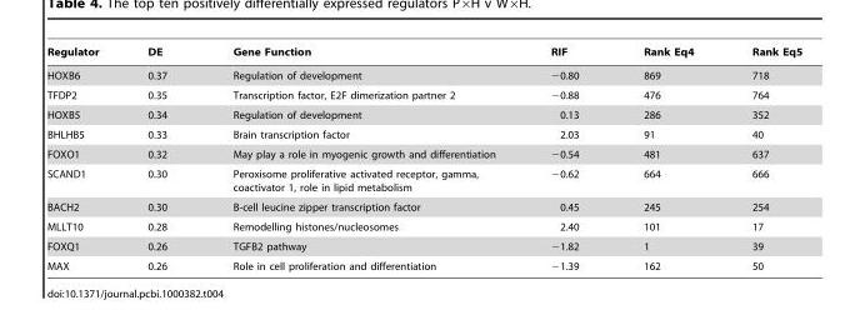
<table><thead><tr><td>Regulator</td><td>DE</td><td>Gene Function</td><td>RIF</td><td>Rank Eq4</td><td>Rank Eq5</td></tr></thead><tbody><tr><td>HOXB6</td><td>0.37</td><td>Regulation of development</td><td>−0.80</td><td>869</td><td>718</td></tr><tr><td>TFDP2</td><td>0.35</td><td>Transcription factor, E2F dimerization partner 2</td><td>−0.88</td><td>476</td><td>764</td></tr><tr><td>HOXB5</td><td>0.34</td><td>Regulation of development</td><td>0.13</td><td>286</td><td>352</td></tr><tr><td>BHLHB5</td><td>0.33</td><td>Brain transcription factor</td><td>2.03</td><td>91</td><td>40</td></tr><tr><td>FOXO1</td><td>0.32</td><td>May play a role in myogenic growth and differentiation</td><td>−0.54</td><td>481</td><td>637</td></tr><tr><td>SCAND1</td><td>0.30</td><td>Peroxisome proliferative activated receptor, gamma, coactivator 1, role in lipid metabolism</td><td>−0.62</td><td>664</td><td>666</td></tr><tr><td>BACH2</td><td>0.30</td><td>B-cell leucine zipper transcription factor</td><td>0.45</td><td>245</td><td>254</td></tr><tr><td>MLLT10</td><td>0.28</td><td>Remodelling histones/nucleosomes</td><td>2.40</td><td>101</td><td>17</td></tr><tr><td>FOXQ1</td><td>0.26</td><td>TGFB2 pathway</td><td>−1.82</td><td>1</td><td>39</td></tr><tr><td>MAX</td><td>0.26</td><td>Role in cell proliferation and differentiation</td><td>−1.39</td><td>162</td><td>50</td></tr></tbody></table>